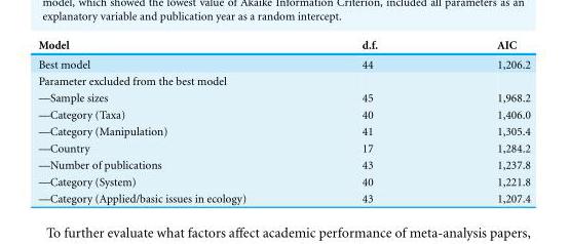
<table><thead><tr><td>Model</td><td>d.f.</td><td>AIC</td></tr></thead><tbody><tr><td>Best model</td><td>44</td><td>1,206.2</td></tr><tr><td colspan="3">Parameter excluded from the best model</td></tr><tr><td>—Sample sizes</td><td>45</td><td>1,968.2</td></tr><tr><td>—Category (Taxa)</td><td>40</td><td>1,406.0</td></tr><tr><td>—Category (Manipulation)</td><td>41</td><td>1,305.4</td></tr><tr><td>—Country</td><td>17</td><td>1,284.2</td></tr><tr><td>—Number of publications</td><td>43</td><td>1,237.8</td></tr><tr><td>—Category (System)</td><td>40</td><td>1,221.8</td></tr><tr><td>—Category (Applied/basic issues in ecology)</td><td>43</td><td>1,207.4</td></tr></tbody></table>